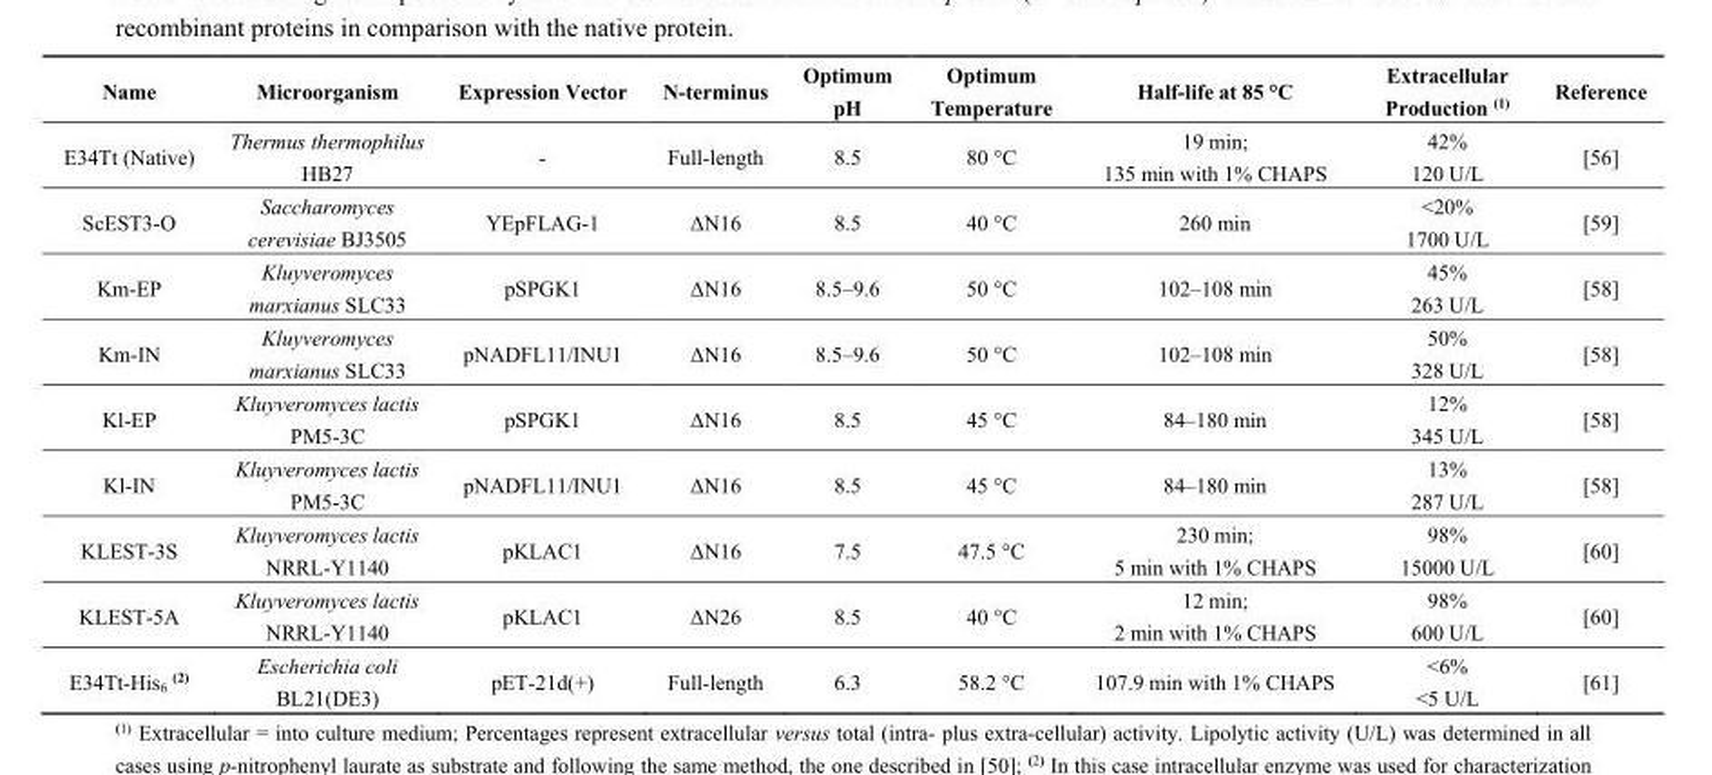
<table><thead><tr><td>Name</td><td>Microorganism</td><td>Expression Vector</td><td>N-terminus</td><td>Optimum pH</td><td>Optimum Temperature</td><td>Half-life at 85 °C</td><td>Extracellular Production <sup>(1)</sup></td><td>Reference</td></tr></thead><tbody><tr><td>E34Tt (Native)</td><td>Thermus thermophilus HB27</td><td>-</td><td>Full-length</td><td>8.5</td><td>80 °C</td><td>19 min; 135 min with 1% CHAPS</td><td>42% 120 U/L</td><td>[56]</td></tr><tr><td>ScEST3-O</td><td>Saccharomyces cerevisiae BJ3505</td><td>YEpFLAG-1</td><td>ΔN16</td><td>8.5</td><td>40 °C</td><td>260 min</td><td>&lt;20% 1700 U/L</td><td>[59]</td></tr><tr><td>Km-EP</td><td>Kluyveromyces marxianus SLC33</td><td>pSPGK1</td><td>ΔN16</td><td>8.5–9.6</td><td>50 °C</td><td>102–108 min</td><td>45% 263 U/L</td><td>[58]</td></tr><tr><td>Km-IN</td><td>Kluyveromyces marxianus SLC33</td><td>pNADFL11/INU1</td><td>ΔN16</td><td>8.5–9.6</td><td>50 °C</td><td>102–108 min</td><td>50% 328 U/L</td><td>[58]</td></tr><tr><td>Kl-EP</td><td>Kluyveromyces lactis PM5-3C</td><td>pSPGK1</td><td>ΔN16</td><td>8.5</td><td>45 °C</td><td>84–180 min</td><td>12% 345 U/L</td><td>[58]</td></tr><tr><td>Kl-IN</td><td>Kluyveromyces lactis PM5-3C</td><td>pNADFL11/INU1</td><td>ΔN16</td><td>8.5</td><td>45 °C</td><td>84–180 min</td><td>13% 287 U/L</td><td>[58]</td></tr><tr><td>KLEST-3S</td><td>Kluyveromyces lactis NRRL-Y1140</td><td>pKLAC1</td><td>ΔN16</td><td>7.5</td><td>47.5 °C</td><td>230 min; 5 min with 1% CHAPS</td><td>98% 15000 U/L</td><td>[60]</td></tr><tr><td>KLEST-5A</td><td>Kluyveromyces lactis NRRL-Y1140</td><td>pKLAC1</td><td>ΔN26</td><td>8.5</td><td>40 °C</td><td>12 min; 2 min with 1% CHAPS</td><td>98% 600 U/L</td><td>[60]</td></tr><tr><td>E34Tt-His<sub>6</sub> <sup>(2)</sup></td><td>Escherichia coli BL21(DE3)</td><td>pET-21d(+)</td><td>Full-length</td><td>6.3</td><td>58.2 °C</td><td>107.9 min with 1% CHAPS</td><td>&lt;6% &lt;5 U/L</td><td>[61]</td></tr></tbody></table>